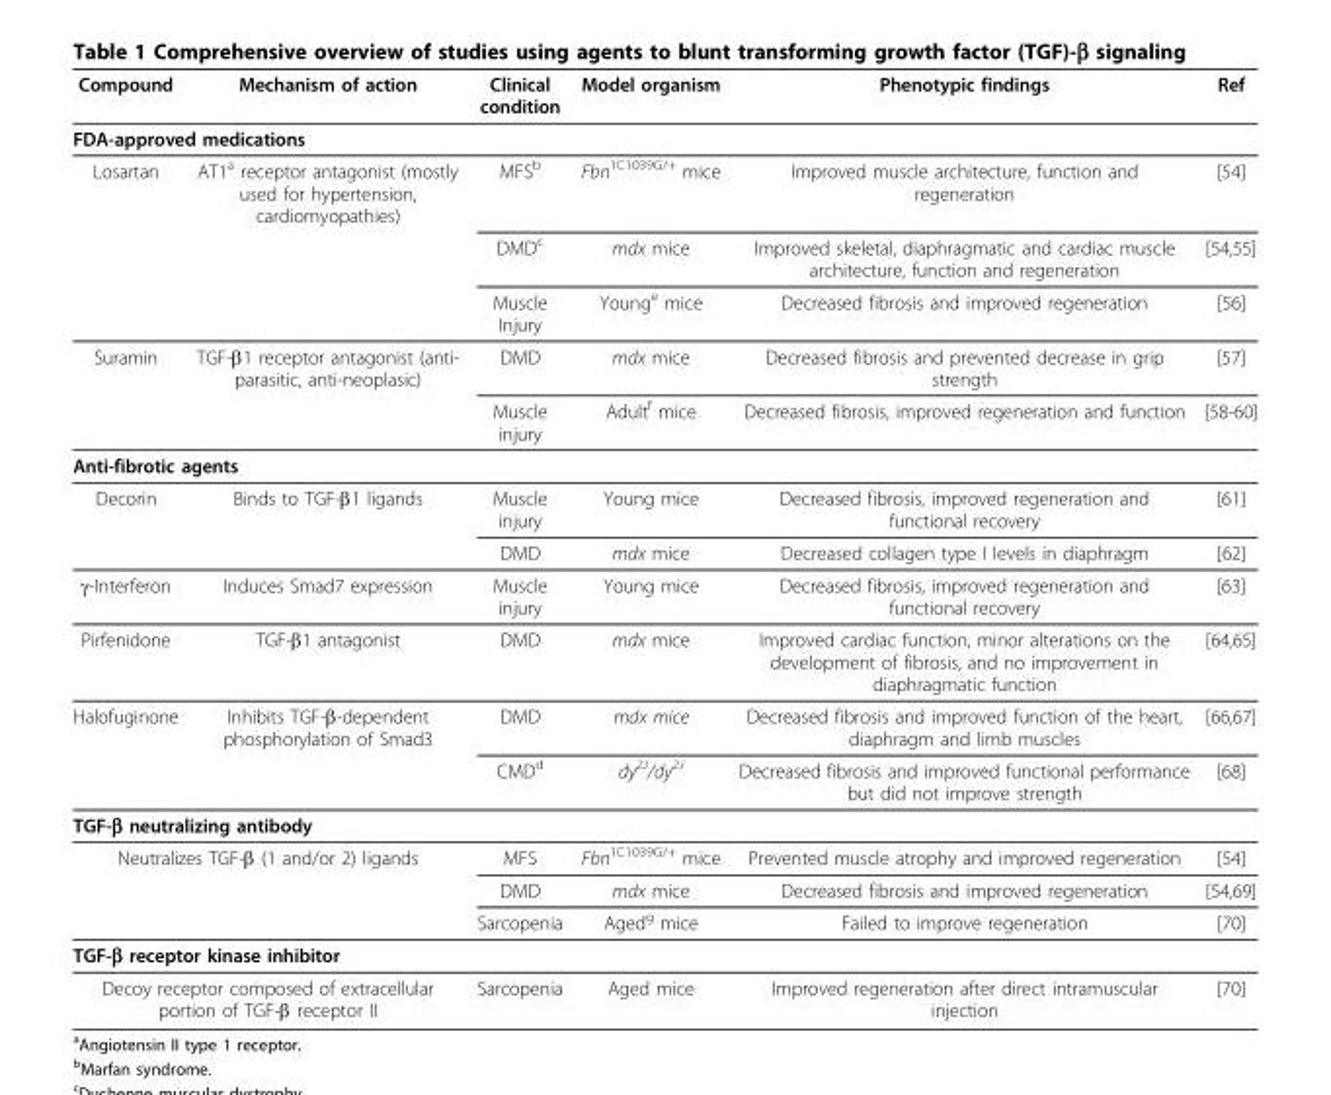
<table><thead><tr><td>Compound</td><td>Mechanism of action</td><td>Clinical condition</td><td>Model organism</td><td>Phenotypic findings</td><td>Ref</td></tr></thead><tbody><tr><td colspan="6">FDA-approved medications</td></tr><tr><td rowspan="3">Losartan</td><td>AT1<sup>a</sup> receptor antagonist (mostly used for hypertension, cardiomyopathies)</td><td>MFS<sup>b</sup></td><td>Fbn<sup>1C1039G/+</sup> mice</td><td>Improved muscle architecture, function and regeneration</td><td>[54]</td></tr><tr><td></td><td>DMD<sup>c</sup></td><td>mdx mice</td><td>Improved skeletal, diaphragmatic and cardiac muscle architecture, function and regeneration</td><td>[54,55]</td></tr><tr><td></td><td>Muscle Injury</td><td>Young<sup>e</sup> mice</td><td>Decreased fibrosis and improved regeneration</td><td>[56]</td></tr><tr><td rowspan="2">Suramin</td><td>TGF-β1 receptor antagonist (anti- parasitic, anti-neoplasic)</td><td>DMD</td><td>mdx mice</td><td>Decreased fibrosis and prevented decrease in grip strength</td><td>[57]</td></tr><tr><td></td><td>Muscle injury</td><td>Adult<sup>f</sup> mice</td><td>Decreased fibrosis, improved regeneration and function</td><td>[58-60]</td></tr><tr><td colspan="6">Anti-fibrotic agents</td></tr><tr><td rowspan="2">Decorin</td><td>Binds to TGF-β1 ligands</td><td>Muscle injury</td><td>Young mice</td><td>Decreased fibrosis, improved regeneration and functional recovery</td><td>[61]</td></tr><tr><td></td><td>DMD</td><td>mdx mice</td><td>Decreased collagen type I levels in diaphragm</td><td>[62]</td></tr><tr><td>γ-Interferon</td><td>Induces Smad7 expression</td><td>Muscle injury</td><td>Young mice</td><td>Decreased fibrosis, improved regeneration and functional recovery</td><td>[63]</td></tr><tr><td>Pirfenidone</td><td>TGF-β1 antagonist</td><td>DMD</td><td>mdx mice</td><td>Improved cardiac function, minor alterations on the development of fibrosis, and no improvement in diaphragmatic function</td><td>[64,65]</td></tr><tr><td rowspan="2">Halofuginone</td><td>Inhibits TGF-β-dependent phosphorylation of Smad3</td><td>DMD</td><td>mdx mice</td><td>Decreased fibrosis and improved function of the heart, diaphragm and limb muscles</td><td>[66,67]</td></tr><tr><td></td><td>CMD<sup>d</sup></td><td>dy<sup>2J</sup>/dy<sup>2J</sup></td><td>Decreased fibrosis and improved functional performance but did not improve strength</td><td>[68]</td></tr><tr><td colspan="6">TGF-β neutralizing antibody</td></tr><tr><td colspan="2">Neutralizes TGF-β (1 and/or 2) ligands</td><td>MFS</td><td>Fbn<sup>1C1039G/+</sup> mice</td><td>Prevented muscle atrophy and improved regeneration</td><td>[54]</td></tr><tr><td></td><td></td><td>DMD</td><td>mdx mice</td><td>Decreased fibrosis and improved regeneration</td><td>[54,69]</td></tr><tr><td></td><td></td><td>Sarcopenia</td><td>Aged<sup>g</sup> mice</td><td>Failed to improve regeneration</td><td>[70]</td></tr><tr><td colspan="6">TGF-β receptor kinase inhibitor</td></tr><tr><td colspan="2">Decoy receptor composed of extracellular portion of TGF-β receptor II</td><td>Sarcopenia</td><td>Aged mice</td><td>Improved regeneration after direct intramuscular injection</td><td>[70]</td></tr></tbody></table>